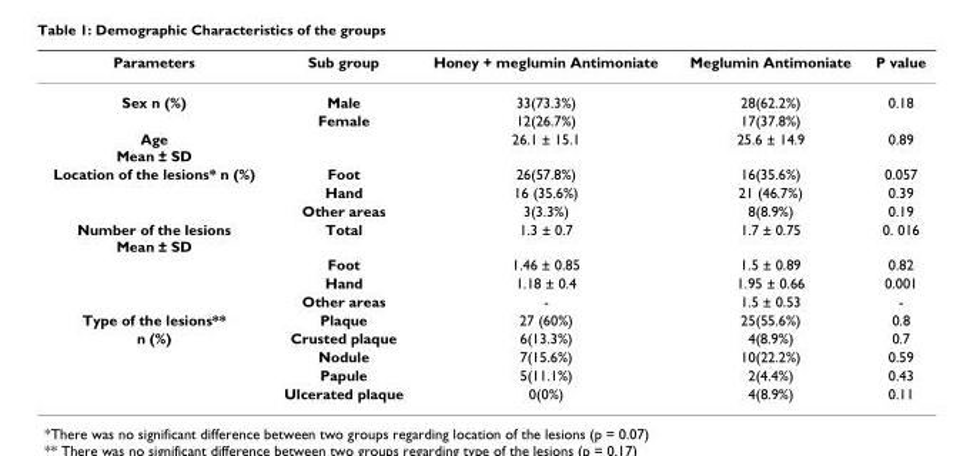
<table><thead><tr><td>Parameters</td><td>Sub group</td><td>Honey + meglumin Antimoniate</td><td>Meglumin Antimoniate</td><td>P value</td></tr></thead><tbody><tr><td rowspan="2">Sex n (%)</td><td>Male</td><td>33(73.3%)</td><td>28(62.2%)</td><td>0.18</td></tr><tr><td>Female</td><td>12(26.7%)</td><td>17(37.8%)</td><td></td></tr><tr><td>Age Mean ± SD</td><td></td><td>26.1 ± 15.1</td><td>25.6 ± 14.9</td><td>0.89</td></tr><tr><td rowspan="3">Location of the lesions* n (%)</td><td>Foot</td><td>26(57.8%)</td><td>16(35.6%)</td><td>0.057</td></tr><tr><td>Hand</td><td>16 (35.6%)</td><td>21 (46.7%)</td><td>0.39</td></tr><tr><td>Other areas</td><td>3(3.3%)</td><td>8(8.9%)</td><td>0.19</td></tr><tr><td rowspan="4">Number of the lesions Mean ± SD</td><td>Total</td><td>1.3 ± 0.7</td><td>1.7 ± 0.75</td><td>0. 016</td></tr><tr><td>Foot</td><td>1.46 ± 0.85</td><td>1.5 ± 0.89</td><td>0.82</td></tr><tr><td>Hand</td><td>1.18 ± 0.4</td><td>1.95 ± 0.66</td><td>0.001</td></tr><tr><td>Other areas</td><td>-</td><td>1.5 ± 0.53</td><td>-</td></tr><tr><td>Type of the lesions**</td><td>Plaque</td><td>27 (60%)</td><td>25(55.6%)</td><td>0.8</td></tr><tr><td rowspan="4">n (%)</td><td>Crusted plaque</td><td>6(13.3%)</td><td>4(8.9%)</td><td>0.7</td></tr><tr><td>Nodule</td><td>7(15.6%)</td><td>10(22.2%)</td><td>0.59</td></tr><tr><td>Papule</td><td>5(11.1%)</td><td>2(4.4%)</td><td>0.43</td></tr><tr><td>Ulcerated plaque</td><td>0(0%)</td><td>4(8.9%)</td><td>0.11</td></tr></tbody></table>